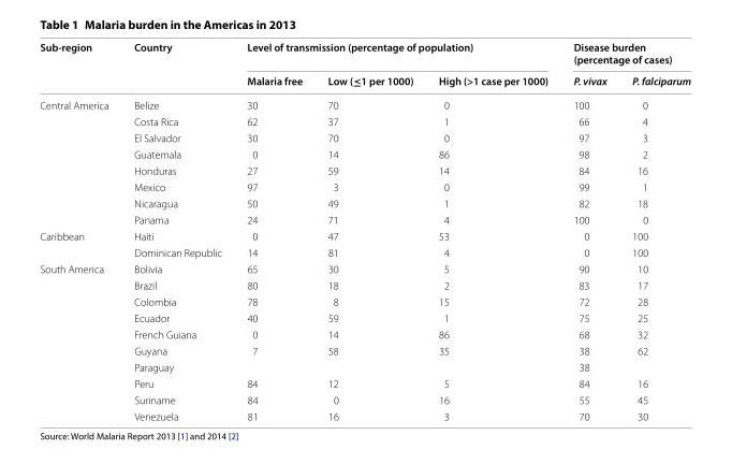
<table><thead><tr><td rowspan="2">Sub-region</td><td rowspan="2">Country</td><td colspan="3">Level of transmission (percentage of population)</td><td colspan="2">Disease burden (percentage of cases)</td></tr><tr><td>Malaria free</td><td>Low (≤1 per 1000)</td><td>High (&gt;1 case per 1000)</td><td>P. vivax</td><td>P. falciparum</td></tr></thead><tbody><tr><td rowspan="8">Central America</td><td>Belize</td><td>30</td><td>70</td><td>0</td><td>100</td><td>0</td></tr><tr><td>Costa Rica</td><td>62</td><td>37</td><td>1</td><td>66</td><td>4</td></tr><tr><td>El Salvador</td><td>30</td><td>70</td><td>0</td><td>97</td><td>3</td></tr><tr><td>Guatemala</td><td>0</td><td>14</td><td>86</td><td>98</td><td>2</td></tr><tr><td>Honduras</td><td>27</td><td>59</td><td>14</td><td>84</td><td>16</td></tr><tr><td>Mexico</td><td>97</td><td>3</td><td>0</td><td>99</td><td>1</td></tr><tr><td>Nicaragua</td><td>50</td><td>49</td><td>1</td><td>82</td><td>18</td></tr><tr><td>Panama</td><td>24</td><td>71</td><td>4</td><td>100</td><td>0</td></tr><tr><td rowspan="2">Caribbean</td><td>Haiti</td><td>0</td><td>47</td><td>53</td><td>0</td><td>100</td></tr><tr><td>Dominican Republic</td><td>14</td><td>81</td><td>4</td><td>0</td><td>100</td></tr><tr><td rowspan="10">South America</td><td>Bolivia</td><td>65</td><td>30</td><td>5</td><td>90</td><td>10</td></tr><tr><td>Brazil</td><td>80</td><td>18</td><td>2</td><td>83</td><td>17</td></tr><tr><td>Colombia</td><td>78</td><td>8</td><td>15</td><td>72</td><td>28</td></tr><tr><td>Ecuador</td><td>40</td><td>59</td><td>1</td><td>75</td><td>25</td></tr><tr><td>French Guiana</td><td>0</td><td>14</td><td>86</td><td>68</td><td>32</td></tr><tr><td>Guyana</td><td>7</td><td>58</td><td>35</td><td>38</td><td>62</td></tr><tr><td>Paraguay</td><td></td><td></td><td></td><td>38</td><td></td></tr><tr><td>Peru</td><td>84</td><td>12</td><td>5</td><td>84</td><td>16</td></tr><tr><td>Suriname</td><td>84</td><td>0</td><td>16</td><td>55</td><td>45</td></tr><tr><td>Venezuela</td><td>81</td><td>16</td><td>3</td><td>70</td><td>30</td></tr></tbody></table>